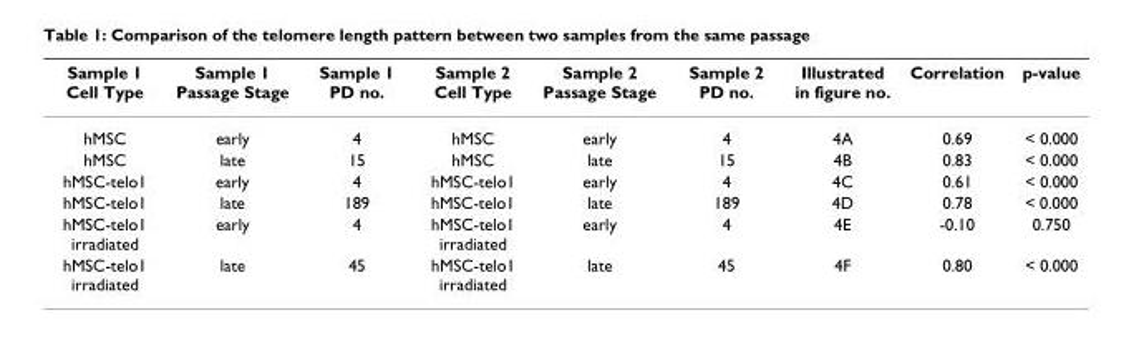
<table><thead><tr><td>Sample 1 Cell Type</td><td>Sample 1 Passage Stage</td><td>Sample 1 PD no.</td><td>Sample 2 Cell Type</td><td>Sample 2 Passage Stage</td><td>Sample 2 PD no.</td><td>Illustrated in figure no.</td><td>Correlation</td><td>p-value</td></tr></thead><tbody><tr><td>hMSC</td><td>early</td><td>4</td><td>hMSC</td><td>early</td><td>4</td><td>4A</td><td>0.69</td><td>&lt; 0.000</td></tr><tr><td>hMSC</td><td>late</td><td>15</td><td>hMSC</td><td>late</td><td>15</td><td>4B</td><td>0.83</td><td>&lt; 0.000</td></tr><tr><td>hMSC-telo1</td><td>early</td><td>4</td><td>hMSC-telo1</td><td>early</td><td>4</td><td>4C</td><td>0.61</td><td>&lt; 0.000</td></tr><tr><td>hMSC-telo1</td><td>late</td><td>189</td><td>hMSC-telo1</td><td>late</td><td>189</td><td>4D</td><td>0.78</td><td>&lt; 0.000</td></tr><tr><td>hMSC-telo1 irradiated</td><td>early</td><td>4</td><td>hMSC-telo1 irradiated</td><td>early</td><td>4</td><td>4E</td><td>-0.10</td><td>0.750</td></tr><tr><td>hMSC-telo1 irradiated</td><td>late</td><td>45</td><td>hMSC-telo1 irradiated</td><td>late</td><td>45</td><td>4F</td><td>0.80</td><td>&lt; 0.000</td></tr></tbody></table>